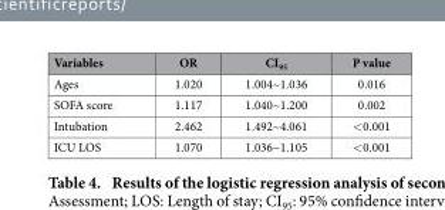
<table><thead><tr><td>Variables</td><td>OR</td><td>CI<sub>95</sub></td><td>P value</td></tr></thead><tbody><tr><td>Ages</td><td>1.020</td><td>1.004~1.036</td><td>0.016</td></tr><tr><td>SOFA score</td><td>1.117</td><td>1.040~1.200</td><td>0.002</td></tr><tr><td>Intubation</td><td>2.462</td><td>1.492~4.061</td><td>&lt; 0.001</td></tr><tr><td>ICU LOS</td><td>1.070</td><td>1.036~1.105</td><td>&lt; 0.001</td></tr></tbody></table>